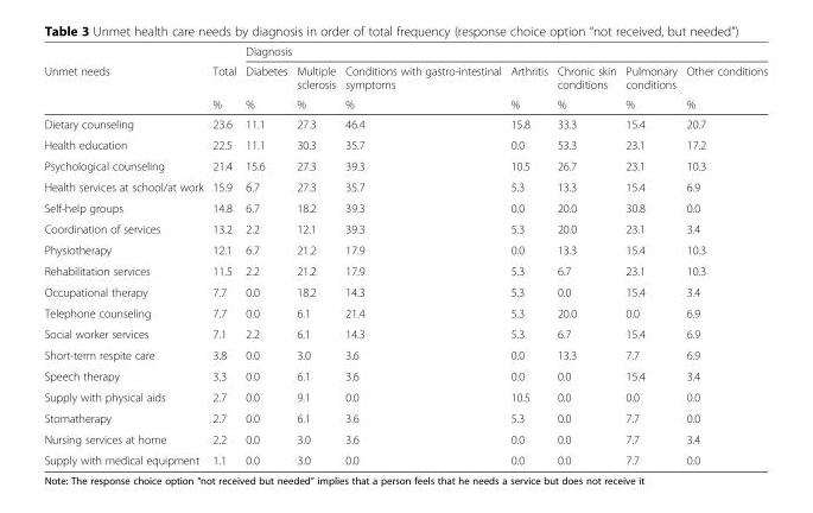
<table><thead><tr><td rowspan="3">Unmet needs</td><td rowspan="3">Total %</td><td colspan="7">Diagnosis</td></tr><tr><td rowspan="2">Diabetes %</td><td rowspan="2">Multiple sclerosis %</td><td rowspan="2">Conditions with gastro-intestinal symptoms %</td><td rowspan="2">Arthritis %</td><td rowspan="2">Chronic skin conditions %</td><td rowspan="2">Pulmonary conditions %</td><td rowspan="2">Other conditions %</td></tr><tr></tr></thead><tbody><tr><td>Dietary counseling</td><td>23.6</td><td>11.1</td><td>27.3</td><td>46.4</td><td>15.8</td><td>33.3</td><td>15.4</td><td>20.7</td></tr><tr><td>Health education</td><td>22.5</td><td>11.1</td><td>30.3</td><td>35.7</td><td>0.0</td><td>53.3</td><td>23.1</td><td>17.2</td></tr><tr><td>Psychological counseling</td><td>21.4</td><td>15.6</td><td>27.3</td><td>39.3</td><td>10.5</td><td>26.7</td><td>23.1</td><td>10.3</td></tr><tr><td>Health services at school/at work</td><td>15.9</td><td>6.7</td><td>27.3</td><td>35.7</td><td>5.3</td><td>13.3</td><td>15.4</td><td>6.9</td></tr><tr><td>Self-help groups</td><td>14.8</td><td>6.7</td><td>18.2</td><td>39.3</td><td>0.0</td><td>20.0</td><td>30.8</td><td>0.0</td></tr><tr><td>Coordination of services</td><td>13.2</td><td>2.2</td><td>12.1</td><td>39.3</td><td>5.3</td><td>20.0</td><td>23.1</td><td>3.4</td></tr><tr><td>Physiotherapy</td><td>12.1</td><td>6.7</td><td>21.2</td><td>17.9</td><td>0.0</td><td>13.3</td><td>15.4</td><td>10.3</td></tr><tr><td>Rehabilitation services</td><td>11.5</td><td>2.2</td><td>21.2</td><td>17.9</td><td>5.3</td><td>6.7</td><td>23.1</td><td>10.3</td></tr><tr><td>Occupational therapy</td><td>7.7</td><td>0.0</td><td>18.2</td><td>14.3</td><td>5.3</td><td>0.0</td><td>15.4</td><td>3.4</td></tr><tr><td>Telephone counseling</td><td>7.7</td><td>0.0</td><td>6.1</td><td>21.4</td><td>5.3</td><td>20.0</td><td>0.0</td><td>6.9</td></tr><tr><td>Social worker services</td><td>7.1</td><td>2.2</td><td>6.1</td><td>14.3</td><td>5.3</td><td>6.7</td><td>15.4</td><td>6.9</td></tr><tr><td>Short-term respite care</td><td>3.8</td><td>0.0</td><td>3.0</td><td>3.6</td><td>0.0</td><td>13.3</td><td>7.7</td><td>6.9</td></tr><tr><td>Speech therapy</td><td>3.3</td><td>0.0</td><td>6.1</td><td>3.6</td><td>0.0</td><td>0.0</td><td>15.4</td><td>3.4</td></tr><tr><td>Supply with physical aids</td><td>2.7</td><td>0.0</td><td>9.1</td><td>0.0</td><td>10.5</td><td>0.0</td><td>0.0</td><td>0.0</td></tr><tr><td>Stomatherapy</td><td>2.7</td><td>0.0</td><td>6.1</td><td>3.6</td><td>5.3</td><td>0.0</td><td>7.7</td><td>0.0</td></tr><tr><td>Nursing services at home</td><td>2.2</td><td>0.0</td><td>3.0</td><td>3.6</td><td>0.0</td><td>0.0</td><td>7.7</td><td>3.4</td></tr><tr><td>Supply with medical equipment</td><td>1.1</td><td>0.0</td><td>3.0</td><td>0.0</td><td>0.0</td><td>0.0</td><td>7.7</td><td>0.0</td></tr></tbody></table>